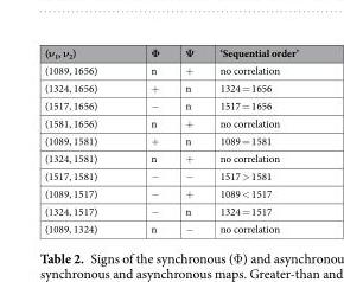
<table><thead><tr><td>(ν<sub>1</sub>, ν<sub>2</sub>)</td><td>Φ</td><td>Ψ</td><td>‘Sequential order’</td></tr></thead><tbody><tr><td>(1089, 1656)</td><td>n</td><td>+</td><td>no correlation</td></tr><tr><td>(1324, 1656)</td><td>+</td><td>n</td><td>1324 = 1656</td></tr><tr><td>(1517, 1656)</td><td>−</td><td>n</td><td>1517 = 1656</td></tr><tr><td>(1581, 1656)</td><td>n</td><td>+</td><td>no correlation</td></tr><tr><td>(1089, 1581)</td><td>+</td><td>n</td><td>1089 = 1581</td></tr><tr><td>(1324, 1581)</td><td>n</td><td>+</td><td>no correlation</td></tr><tr><td>(1517, 1581)</td><td>−</td><td>−</td><td>1517 &gt; 1581</td></tr><tr><td>(1089, 1517)</td><td>−</td><td>+</td><td>1089 &lt; 1517</td></tr><tr><td>(1324, 1517)</td><td>−</td><td>n</td><td>1324 = 1517</td></tr><tr><td>(1089, 1324)</td><td>n</td><td>−</td><td>no correlation</td></tr></tbody></table>